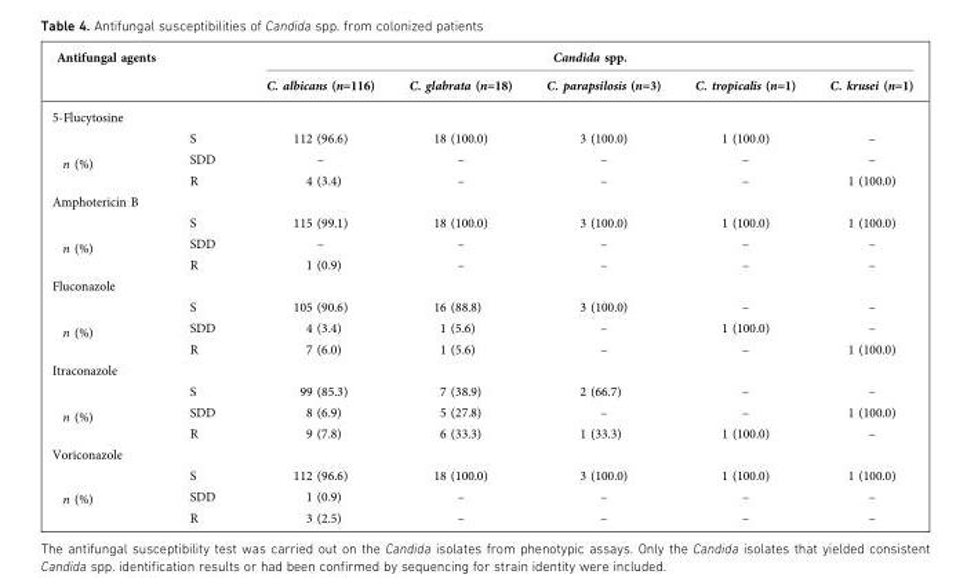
<table><thead><tr><td rowspan="2">Antifungal agents</td><td rowspan="2"></td><td colspan="5">Candida spp.</td></tr><tr><td>C. albicans (n=116)</td><td>C. glabrata (n=18)</td><td>C. parapsilosis (n=3)</td><td>C. tropicalis (n=1)</td><td>C. krusei (n=1)</td></tr></thead><tbody><tr><td colspan="7">5-Flucytosine</td></tr><tr><td rowspan="3">n (%)</td><td>S</td><td>112 (96.6)</td><td>18 (100.0)</td><td>3 (100.0)</td><td>1 (100.0)</td><td>–</td></tr><tr><td>SDD</td><td>–</td><td>–</td><td>–</td><td>–</td><td>–</td></tr><tr><td>R</td><td>4 (3.4)</td><td>–</td><td>–</td><td>–</td><td>1 (100.0)</td></tr><tr><td colspan="7">Amphotericin B</td></tr><tr><td rowspan="3">n (%)</td><td>S</td><td>115 (99.1)</td><td>18 (100.0)</td><td>3 (100.0)</td><td>1 (100.0)</td><td>1 (100.0)</td></tr><tr><td>SDD</td><td>–</td><td>–</td><td>–</td><td>–</td><td>–</td></tr><tr><td>R</td><td>1 (0.9)</td><td>–</td><td>–</td><td>–</td><td>–</td></tr><tr><td colspan="7">Fluconazole</td></tr><tr><td rowspan="3">n (%)</td><td>S</td><td>105 (90.6)</td><td>16 (88.8)</td><td>3 (100.0)</td><td>–</td><td>–</td></tr><tr><td>SDD</td><td>4 (3.4)</td><td>1 (5.6)</td><td>–</td><td>1 (100.0)</td><td>–</td></tr><tr><td>R</td><td>7 (6.0)</td><td>1 (5.6)</td><td>–</td><td>–</td><td>1 (100.0)</td></tr><tr><td colspan="7">Itraconazole</td></tr><tr><td rowspan="3">n (%)</td><td>S</td><td>99 (85.3)</td><td>7 (38.9)</td><td>2 (66.7)</td><td>–</td><td>–</td></tr><tr><td>SDD</td><td>8 (6.9)</td><td>5 (27.8)</td><td>–</td><td>–</td><td>1 (100.0)</td></tr><tr><td>R</td><td>9 (7.8)</td><td>6 (33.3)</td><td>1 (33.3)</td><td>1 (100.0)</td><td>–</td></tr><tr><td colspan="7">Voriconazole</td></tr><tr><td rowspan="3">n (%)</td><td>S</td><td>112 (96.6)</td><td>18 (100.0)</td><td>3 (100.0)</td><td>1 (100.0)</td><td>1 (100.0)</td></tr><tr><td>SDD</td><td>1 (0.9)</td><td>–</td><td>–</td><td>–</td><td>–</td></tr><tr><td>R</td><td>3 (2.5)</td><td>–</td><td>–</td><td>–</td><td>–</td></tr></tbody></table>